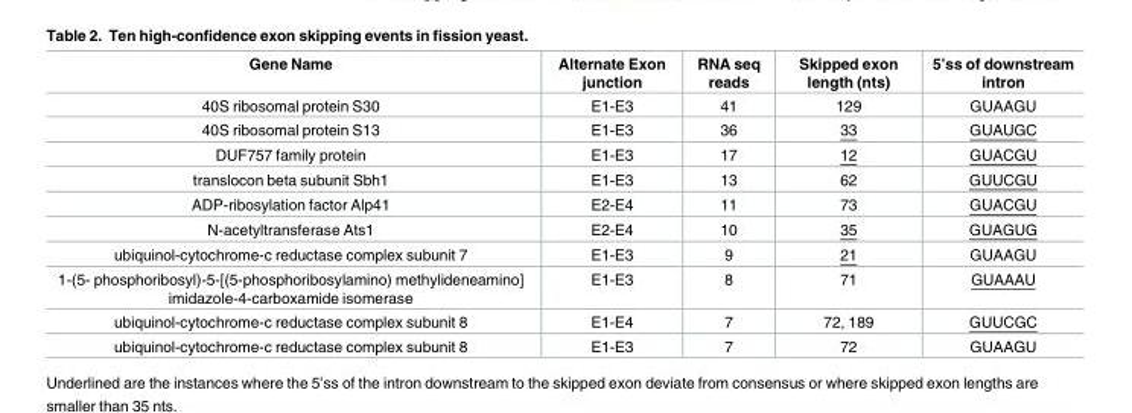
<table><thead><tr><td>Gene Name</td><td>Alternate Exon junction</td><td>RNA seq reads</td><td>Skipped exon length (nts)</td><td>5’ss of downstream intron</td></tr></thead><tbody><tr><td>40S ribosomal protein S30</td><td>E1-E3</td><td>41</td><td>129</td><td>GUAAGU</td></tr><tr><td>40S ribosomal protein S13</td><td>E1-E3</td><td>36</td><td>33</td><td>GUAUGC</td></tr><tr><td>DUF757 family protein</td><td>E1-E3</td><td>17</td><td>12</td><td>GUACGU</td></tr><tr><td>translocon beta subunit Sbh1</td><td>E1-E3</td><td>13</td><td>62</td><td>GUUCGU</td></tr><tr><td>ADP-ribosylation factor Alp41</td><td>E2-E4</td><td>11</td><td>73</td><td>GUACGU</td></tr><tr><td>N-acetyltransferase Ats1</td><td>E2-E4</td><td>10</td><td>35</td><td>GUAGUG</td></tr><tr><td>ubiquinol-cytochrome-c reductase complex subunit 7</td><td>E1-E3</td><td>9</td><td>21</td><td>GUAAGU</td></tr><tr><td>1-(5- phosphoribosyl)-5-[(5-phosphoribosylamino) methylideneamino] imidazole-4-carboxamide isomerase</td><td>E1-E3</td><td>8</td><td>71</td><td>GUAAAU</td></tr><tr><td>ubiquinol-cytochrome-c reductase complex subunit 8</td><td>E1-E4</td><td>7</td><td>72, 189</td><td>GUUCGC</td></tr><tr><td>ubiquinol-cytochrome-c reductase complex subunit 8</td><td>E1-E3</td><td>7</td><td>72</td><td>GUAAGU</td></tr></tbody></table>